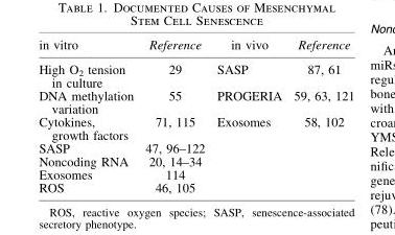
<table><thead><tr><td>in vitro</td><td>Reference</td><td>in vivo</td><td>Reference</td></tr></thead><tbody><tr><td>High O<sub>2</sub> tension in culture</td><td>29</td><td>SASP</td><td>87, 61</td></tr><tr><td>DNA methylation variation</td><td>55</td><td>PROGERIA</td><td>59, 63, 121</td></tr><tr><td>Cytokines, growth factors</td><td>71, 115</td><td>Exosomes</td><td>58, 102</td></tr><tr><td>SASP</td><td>47, 96–122</td><td></td><td></td></tr><tr><td>Noncoding RNA</td><td>20, 14–34</td><td></td><td></td></tr><tr><td>Exosomes</td><td>114</td><td></td><td></td></tr><tr><td>ROS</td><td>46, 105</td><td></td><td></td></tr></tbody></table>